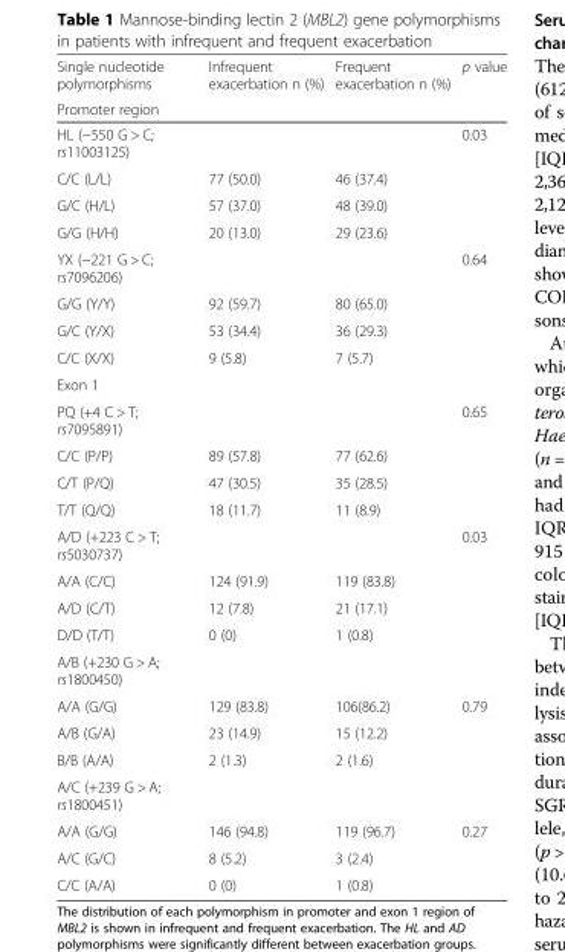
<table><thead><tr><td rowspan="2">Single nucleotide polymorphisms Promoter region</td><td rowspan="2">Infrequent exacerbation n (%)</td><td rowspan="2">Frequent exacerbation n (%)</td><td rowspan="2">p value</td></tr><tr></tr></thead><tbody><tr><td>HL (−550 G &gt; C; rs11003125)</td><td></td><td></td><td>0.03</td></tr><tr><td>C/C (L/L)</td><td>77 (50.0)</td><td>46 (37.4)</td><td></td></tr><tr><td>G/C (H/L)</td><td>57 (37.0)</td><td>48 (39.0)</td><td></td></tr><tr><td>G/G (H/H)</td><td>20 (13.0)</td><td>29 (23.6)</td><td></td></tr><tr><td>YX (−221 G &gt; C; rs7096206)</td><td></td><td></td><td>0.64</td></tr><tr><td>G/G (Y/Y)</td><td>92 (59.7)</td><td>80 (65.0)</td><td></td></tr><tr><td>G/C (Y/X)</td><td>53 (34.4)</td><td>36 (29.3)</td><td></td></tr><tr><td>C/C (X/X)</td><td>9 (5.8)</td><td>7 (5.7)</td><td></td></tr><tr><td colspan="4">Exon 1</td></tr><tr><td>PQ (+4 C &gt; T; rs7095891)</td><td></td><td></td><td>0.65</td></tr><tr><td>C/C (P/P)</td><td>89 (57.8)</td><td>77 (62.6)</td><td></td></tr><tr><td>C/T (P/Q)</td><td>47 (30.5)</td><td>35 (28.5)</td><td></td></tr><tr><td>T/T (Q/Q)</td><td>18 (11.7)</td><td>11 (8.9)</td><td></td></tr><tr><td>A/D (+223 C &gt; T; rs5030737)</td><td></td><td></td><td>0.03</td></tr><tr><td>A/A (C/C)</td><td>124 (91.9)</td><td>119 (83.8)</td><td></td></tr><tr><td>A/D (C/T)</td><td>12 (7.8)</td><td>21 (17.1)</td><td></td></tr><tr><td>D/D (T/T)</td><td>0 (0)</td><td>1 (0.8)</td><td></td></tr><tr><td colspan="4">A/B (+230 G &gt; A; rs1800450)</td></tr><tr><td>A/A (G/G)</td><td>129 (83.8)</td><td>106(86.2)</td><td>0.79</td></tr><tr><td>A/B (G/A)</td><td>23 (14.9)</td><td>15 (12.2)</td><td></td></tr><tr><td>B/B (A/A)</td><td>2 (1.3)</td><td>2 (1.6)</td><td></td></tr><tr><td colspan="4">A/C (+239 G &gt; A; rs1800451)</td></tr><tr><td>A/A (G/G)</td><td>146 (94.8)</td><td>119 (96.7)</td><td>0.27</td></tr><tr><td>A/C (G/C)</td><td>8 (5.2)</td><td>3 (2.4)</td><td></td></tr><tr><td>C/C (A/A)</td><td>0 (0)</td><td>1 (0.8)</td><td></td></tr></tbody></table>